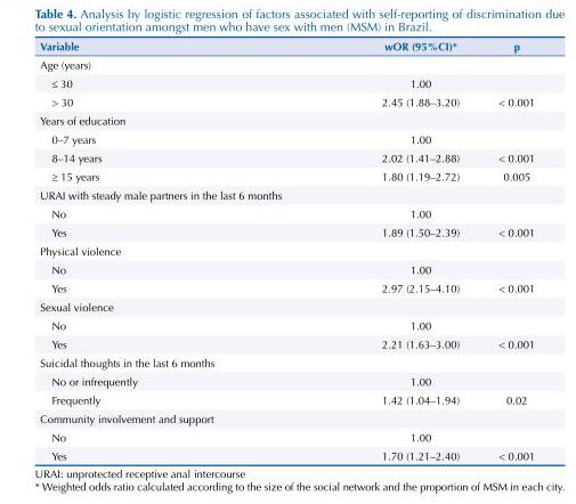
<table><thead><tr><td>Variable</td><td>wOR (95%CI)*</td><td>p</td></tr></thead><tbody><tr><td colspan="3">Age (years)</td></tr><tr><td>≤ 30</td><td>1.00</td><td></td></tr><tr><td>&gt; 30</td><td>2.45 (1.88–3.20)</td><td>&lt; 0.001</td></tr><tr><td colspan="3">Years of education</td></tr><tr><td>0–7 years</td><td>1.00</td><td></td></tr><tr><td>8–14 years</td><td>2.02 (1.41–2.88)</td><td>&lt; 0.001</td></tr><tr><td>≥ 15 years</td><td>1.80 (1.19–2.72)</td><td>0.005</td></tr><tr><td colspan="3">URAI with steady male partners in the last 6 months</td></tr><tr><td>No</td><td>1.00</td><td></td></tr><tr><td>Yes</td><td>1.89 (1.50–2.39)</td><td>&lt; 0.001</td></tr><tr><td colspan="3">Physical violence</td></tr><tr><td>No</td><td>1.00</td><td></td></tr><tr><td>Yes</td><td>2.97 (2.15–4.10)</td><td>&lt; 0.001</td></tr><tr><td colspan="3">Sexual violence</td></tr><tr><td>No</td><td>1.00</td><td></td></tr><tr><td>Yes</td><td>2.21 (1.63–3.00)</td><td>&lt; 0.001</td></tr><tr><td colspan="3">Suicidal thoughts in the last 6 months</td></tr><tr><td>No or infrequently</td><td>1.00</td><td></td></tr><tr><td>Frequently</td><td>1.42 (1.04–1.94)</td><td>0.02</td></tr><tr><td colspan="3">Community involvement and support</td></tr><tr><td>No</td><td>1.00</td><td></td></tr><tr><td>Yes</td><td>1.70 (1.21–2.40)</td><td>&lt; 0.001</td></tr></tbody></table>